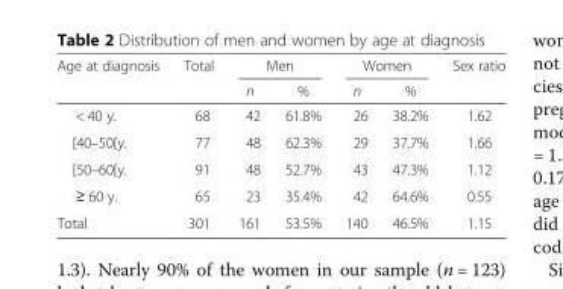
<table><thead><tr><td rowspan="2">Age at diagnosis</td><td rowspan="2">Total</td><td colspan="2">Men</td><td colspan="2">Women</td><td rowspan="2">Sex ratio</td></tr><tr><td>n</td><td>%</td><td>n</td><td>%</td></tr></thead><tbody><tr><td>&lt; 40 y.</td><td>68</td><td>42</td><td>61.8%</td><td>26</td><td>38.2%</td><td>1.62</td></tr><tr><td>[40–50[y.</td><td>77</td><td>48</td><td>62.3%</td><td>29</td><td>37.7%</td><td>1.66</td></tr><tr><td>[50–60[y.</td><td>91</td><td>48</td><td>52.7%</td><td>43</td><td>47.3%</td><td>1.12</td></tr><tr><td>≥ 60 y.</td><td>65</td><td>23</td><td>35.4%</td><td>42</td><td>64.6%</td><td>0.55</td></tr><tr><td>Total</td><td>301</td><td>161</td><td>53.5%</td><td>140</td><td>46.5%</td><td>1.15</td></tr></tbody></table>